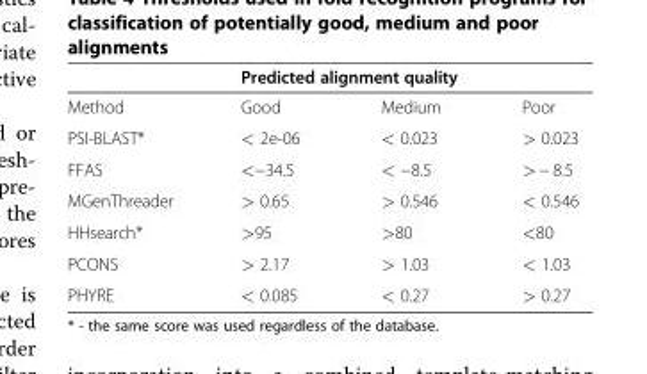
<table><thead><tr><td rowspan="2">Method</td><td colspan="3">Predicted alignment quality</td></tr><tr><td>Good</td><td>Medium</td><td>Poor</td></tr></thead><tbody><tr><td>PSI-BLAST*</td><td>&lt; 2e-06</td><td>&lt; 0.023</td><td>&gt; 0.023</td></tr><tr><td>FFAS</td><td>&lt;−34.5</td><td>&lt; −8.5</td><td>&gt; − 8.5</td></tr><tr><td>MGenThreader</td><td>&gt; 0.65</td><td>&gt; 0.546</td><td>&lt; 0.546</td></tr><tr><td>HHsearch*</td><td>&gt;95</td><td>&gt;80</td><td>&lt;80</td></tr><tr><td>PCONS</td><td>&gt; 2.17</td><td>&gt; 1.03</td><td>&lt; 1.03</td></tr><tr><td>PHYRE</td><td>&lt; 0.085</td><td>&lt; 0.27</td><td>&gt; 0.27</td></tr></tbody></table>